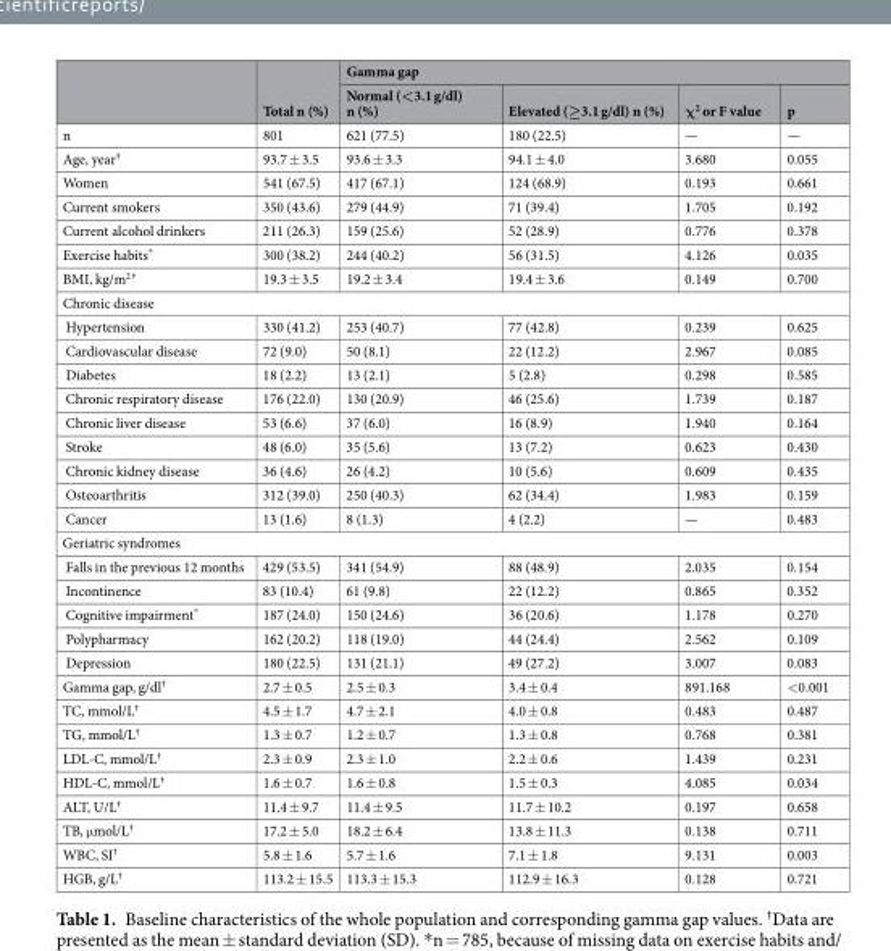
<table><thead><tr><td rowspan="2"></td><td rowspan="2">Total n (%)</td><td colspan="4">Gamma gap</td></tr><tr><td>Normal (&lt;3.1 g/dl) n (%)</td><td>Elevated (≥3.1 g/dl) n (%)</td><td>χ<sup>2</sup> or F value</td><td>p</td></tr></thead><tbody><tr><td>n</td><td>801</td><td>621 (77.5)</td><td>180 (22.5)</td><td>—</td><td>—</td></tr><tr><td>Age, year<sup>†</sup></td><td>93.7 ± 3.5</td><td>93.6 ± 3.3</td><td>94.1 ± 4.0</td><td>3.680</td><td>0.055</td></tr><tr><td>Women</td><td>541 (67.5)</td><td>417 (67.1)</td><td>124 (68.9)</td><td>0.193</td><td>0.661</td></tr><tr><td>Current smokers</td><td>350 (43.6)</td><td>279 (44.9)</td><td>71 (39.4)</td><td>1.705</td><td>0.192</td></tr><tr><td>Current alcohol drinkers</td><td>211 (26.3)</td><td>159 (25.6)</td><td>52 (28.9)</td><td>0.776</td><td>0.378</td></tr><tr><td>Exercise habits*</td><td>300 (38.2)</td><td>244 (40.2)</td><td>56 (31.5)</td><td>4.126</td><td>0.035</td></tr><tr><td>BMI, kg/m<sup>2 †</sup></td><td>19.3 ± 3.5</td><td>19.2 ± 3.4</td><td>19.4 ± 3.6</td><td>0.149</td><td>0.700</td></tr><tr><td colspan="6">Chronic disease</td></tr><tr><td>Hypertension</td><td>330 (41.2)</td><td>253 (40.7)</td><td>77 (42.8)</td><td>0.239</td><td>0.625</td></tr><tr><td>Cardiovascular disease</td><td>72 (9.0)</td><td>50 (8.1)</td><td>22 (12.2)</td><td>2.967</td><td>0.085</td></tr><tr><td>Diabetes</td><td>18 (2.2)</td><td>13 (2.1)</td><td>5 (2.8)</td><td>0.298</td><td>0.585</td></tr><tr><td>Chronic respiratory disease</td><td>176 (22.0)</td><td>130 (20.9)</td><td>46 (25.6)</td><td>1.739</td><td>0.187</td></tr><tr><td>Chronic liver disease</td><td>53 (6.6)</td><td>37 (6.0)</td><td>16 (8.9)</td><td>1.940</td><td>0.164</td></tr><tr><td>Stroke</td><td>48 (6.0)</td><td>35 (5.6)</td><td>13 (7.2)</td><td>0.623</td><td>0.430</td></tr><tr><td>Chronic kidney disease</td><td>36 (4.6)</td><td>26 (4.2)</td><td>10 (5.6)</td><td>0.609</td><td>0.435</td></tr><tr><td>Osteoarthritis</td><td>312 (39.0)</td><td>250 (40.3)</td><td>62 (34.4)</td><td>1.983</td><td>0.159</td></tr><tr><td>Cancer</td><td>13 (1.6)</td><td>8 (1.3)</td><td>4 (2.2)</td><td>—</td><td>0.483</td></tr><tr><td colspan="6">Geriatric syndromes</td></tr><tr><td>Falls in the previous 12 months</td><td>429 (53.5)</td><td>341 (54.9)</td><td>88 (48.9)</td><td>2.035</td><td>0.154</td></tr><tr><td>Incontinence</td><td>83 (10.4)</td><td>61 (9.8)</td><td>22 (12.2)</td><td>0.865</td><td>0.352</td></tr><tr><td>Cognitive impairment*</td><td>187 (24.0)</td><td>150 (24.6)</td><td>36 (20.6)</td><td>1.178</td><td>0.270</td></tr><tr><td>Polypharmacy</td><td>162 (20.2)</td><td>118 (19.0)</td><td>44 (24.4)</td><td>2.562</td><td>0.109</td></tr><tr><td>Depression</td><td>180 (22.5)</td><td>131 (21.1)</td><td>49 (27.2)</td><td>3.007</td><td>0.083</td></tr><tr><td>Gamma gap, g/dl<sup>†</sup></td><td>2.7 ± 0.5</td><td>2.5 ± 0.3</td><td>3.4 ± 0.4</td><td>891.168</td><td>&lt;0.001</td></tr><tr><td>TC, mmol/L<sup>†</sup></td><td>4.5 ± 1.7</td><td>4.7 ± 2.1</td><td>4.0 ± 0.8</td><td>0.483</td><td>0.487</td></tr><tr><td>TG, mmol/L<sup>†</sup></td><td>1.3 ± 0.7</td><td>1.2 ± 0.7</td><td>1.3 ± 0.8</td><td>0.768</td><td>0.381</td></tr><tr><td>LDL-C, mmol/L<sup>†</sup></td><td>2.3 ± 0.9</td><td>2.3 ± 1.0</td><td>2.2 ± 0.6</td><td>1.439</td><td>0.231</td></tr><tr><td>HDL-C, mmol/L<sup>†</sup></td><td>1.6 ± 0.7</td><td>1.6 ± 0.8</td><td>1.5 ± 0.3</td><td>4.085</td><td>0.034</td></tr><tr><td>ALT, U/L<sup>†</sup></td><td>11.4 ± 9.7</td><td>11.4 ± 9.5</td><td>11.7 ± 10.2</td><td>0.197</td><td>0.658</td></tr><tr><td>TB, μmol/L<sup>†</sup></td><td>17.2 ± 5.0</td><td>18.2 ± 6.4</td><td>13.8 ± 11.3</td><td>0.138</td><td>0.711</td></tr><tr><td>WBC, SI<sup>†</sup></td><td>5.8 ± 1.6</td><td>5.7 ± 1.6</td><td>7.1 ± 1.8</td><td>9.131</td><td>0.003</td></tr><tr><td>HGB, g/L<sup>†</sup></td><td>113.2 ± 15.5</td><td>113.3 ± 15.3</td><td>112.9 ± 16.3</td><td>0.128</td><td>0.721</td></tr></tbody></table>